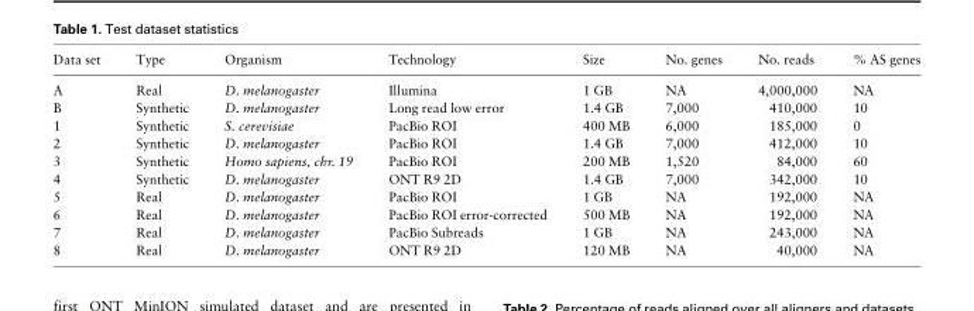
<table><thead><tr><td>Data set</td><td>Type</td><td>Organism</td><td>Technology</td><td>Size</td><td>No. genes</td><td>No. reads</td><td>% AS genes</td></tr></thead><tbody><tr><td>A</td><td>Real</td><td>D. melanogaster</td><td>Illumina</td><td>1 GB</td><td>NA</td><td>4,000,000</td><td>NA</td></tr><tr><td>B</td><td>Synthetic</td><td>D. melanogaster</td><td>Long read low error</td><td>1.4 GB</td><td>7,000</td><td>410,000</td><td>10</td></tr><tr><td>1</td><td>Synthetic</td><td>S. cerevisiae</td><td>PacBio ROI</td><td>400 MB</td><td>6,000</td><td>185,000</td><td>0</td></tr><tr><td>2</td><td>Synthetic</td><td>D. melanogaster</td><td>PacBio ROI</td><td>1.4 GB</td><td>7,000</td><td>412,000</td><td>10</td></tr><tr><td>3</td><td>Synthetic</td><td>Homo sapiens, chr. 19</td><td>PacBio ROI</td><td>200 MB</td><td>1,520</td><td>84,000</td><td>60</td></tr><tr><td>4</td><td>Synthetic</td><td>D. melanogaster</td><td>ONT R9 2D</td><td>1.4 GB</td><td>7,000</td><td>342,000</td><td>10</td></tr><tr><td>5</td><td>Real</td><td>D. melanogaster</td><td>PacBio ROI</td><td>1 GB</td><td>NA</td><td>192,000</td><td>NA</td></tr><tr><td>6</td><td>Real</td><td>D. melanogaster</td><td>PacBio ROI error-corrected</td><td>500 MB</td><td>NA</td><td>192,000</td><td>NA</td></tr><tr><td>7</td><td>Real</td><td>D. melanogaster</td><td>PacBio Subreads</td><td>1 GB</td><td>NA</td><td>243,000</td><td>NA</td></tr><tr><td>8</td><td>Real</td><td>D. melanogaster</td><td>ONT R9 2D</td><td>120 MB</td><td>NA</td><td>40,000</td><td>NA</td></tr></tbody></table>